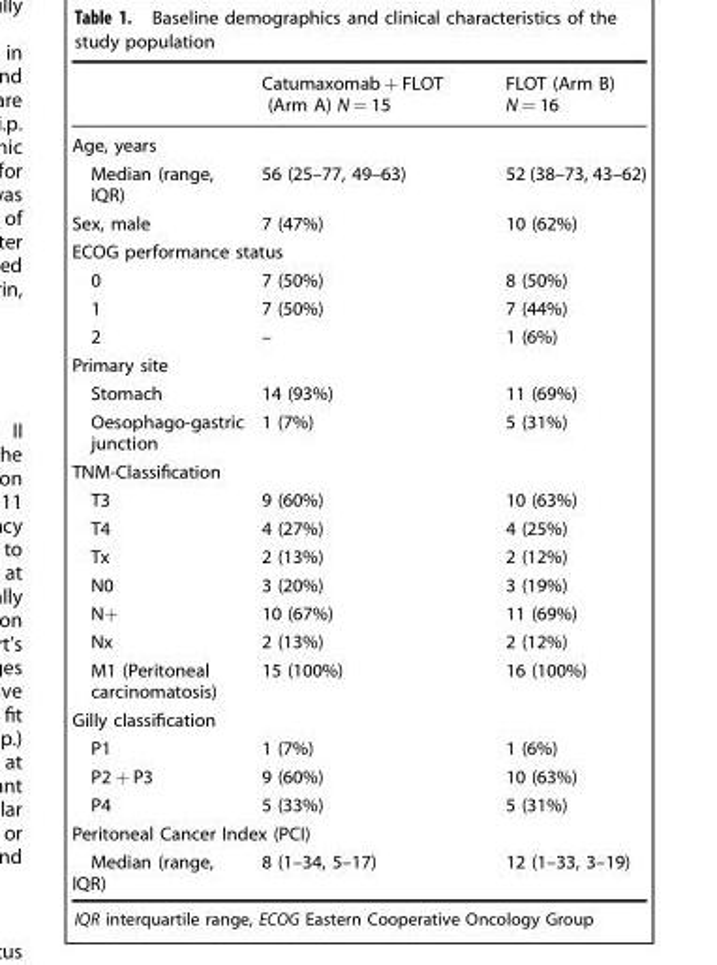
<table><thead><tr><td></td><td>Catumaxomab + FLOT (Arm A) N = 15</td><td>FLOT (Arm B) N = 16</td></tr></thead><tbody><tr><td colspan="3">Age, years</td></tr><tr><td>Median (range, IQR)</td><td>56 (25–77, 49–63)</td><td>52 (38–73, 43–62)</td></tr><tr><td>Sex, male</td><td>7 (47%)</td><td>10 (62%)</td></tr><tr><td colspan="3">ECOG performance status</td></tr><tr><td>0</td><td>7 (50%)</td><td>8 (50%)</td></tr><tr><td>1</td><td>7 (50%)</td><td>7 (44%)</td></tr><tr><td>2</td><td>–</td><td>1 (6%)</td></tr><tr><td colspan="3">Primary site</td></tr><tr><td>Stomach</td><td>14 (93%)</td><td>11 (69%)</td></tr><tr><td>Oesophago-gastric junction</td><td>1 (7%)</td><td>5 (31%)</td></tr><tr><td colspan="3">TNM-Classification</td></tr><tr><td>T3</td><td>9 (60%)</td><td>10 (63%)</td></tr><tr><td>T4</td><td>4 (27%)</td><td>4 (25%)</td></tr><tr><td>Tx</td><td>2 (13%)</td><td>2 (12%)</td></tr><tr><td>N0</td><td>3 (20%)</td><td>3 (19%)</td></tr><tr><td>N+</td><td>10 (67%)</td><td>11 (69%)</td></tr><tr><td>Nx</td><td>2 (13%)</td><td>2 (12%)</td></tr><tr><td>M1 (Peritoneal carcinomatosis)</td><td>15 (100%)</td><td>16 (100%)</td></tr><tr><td colspan="3">Gilly classification</td></tr><tr><td>P1</td><td>1 (7%)</td><td>1 (6%)</td></tr><tr><td>P2 + P3</td><td>9 (60%)</td><td>10 (63%)</td></tr><tr><td>P4</td><td>5 (33%)</td><td>5 (31%)</td></tr><tr><td colspan="3">Peritoneal Cancer Index (PCI)</td></tr><tr><td>Median (range, IQR)</td><td>8 (1–34, 5–17)</td><td>12 (1–33, 3–19)</td></tr></tbody></table>